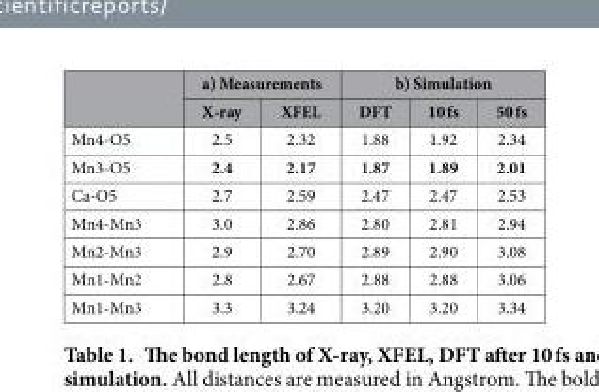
<table><thead><tr><td rowspan="2"></td><td colspan="2">a) Measurements</td><td colspan="3">b) Simulation</td></tr><tr><td>X-ray</td><td>XFEL</td><td>DFT</td><td>10 fs</td><td>50 fs</td></tr></thead><tbody><tr><td>Mn4-O5</td><td>2.5</td><td>2.32</td><td>1.88</td><td>1.92</td><td>2.34</td></tr><tr><td>Mn3-O5</td><td>2.4</td><td>2.17</td><td>1.87</td><td>1.89</td><td>2.01</td></tr><tr><td>Ca-O5</td><td>2.7</td><td>2.59</td><td>2.47</td><td>2.47</td><td>2.53</td></tr><tr><td>Mn4-Mn3</td><td>3.0</td><td>2.86</td><td>2.80</td><td>2.81</td><td>2.94</td></tr><tr><td>Mn2-Mn3</td><td>2.9</td><td>2.70</td><td>2.89</td><td>2.90</td><td>3.08</td></tr><tr><td>Mn1-Mn2</td><td>2.8</td><td>2.67</td><td>2.88</td><td>2.88</td><td>3.06</td></tr><tr><td>Mn1-Mn3</td><td>3.3</td><td>3.24</td><td>3.20</td><td>3.20</td><td>3.34</td></tr></tbody></table>